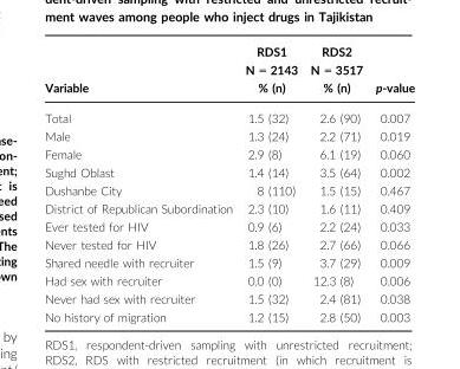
<table><thead><tr><td>Variable</td><td>RDS1 N = 2143 % (n)</td><td>RDS2 N = 3517 % (n)</td><td>p-value</td></tr></thead><tbody><tr><td>Total</td><td>1.5 (32)</td><td>2.6 (90)</td><td>0.007</td></tr><tr><td>Male</td><td>1.3 (24)</td><td>2.2 (71)</td><td>0.019</td></tr><tr><td>Female</td><td>2.9 (8)</td><td>6.1 (19)</td><td>0.060</td></tr><tr><td>Sughd Oblast</td><td>1.4 (14)</td><td>3.5 (64)</td><td>0.002</td></tr><tr><td>Dushanbe City</td><td>8 (110)</td><td>1.5 (15)</td><td>0.467</td></tr><tr><td>District of Republican Subordination</td><td>2.3 (10)</td><td>1.6 (11)</td><td>0.409</td></tr><tr><td>Ever tested for HIV</td><td>0.9 (6)</td><td>2.2 (24)</td><td>0.033</td></tr><tr><td>Never tested for HIV</td><td>1.8 (26)</td><td>2.7 (66)</td><td>0.066</td></tr><tr><td>Shared needle with recruiter</td><td>1.5 (9)</td><td>3.7 (29)</td><td>0.009</td></tr><tr><td>Had sex with recruiter</td><td>0.0 (0)</td><td>12.3 (8)</td><td>0.006</td></tr><tr><td>Never had sex with recruiter</td><td>1.5 (32)</td><td>2.4 (81)</td><td>0.038</td></tr><tr><td>No history of migration</td><td>1.2 (15)</td><td>2.8 (50)</td><td>0.003</td></tr></tbody></table>